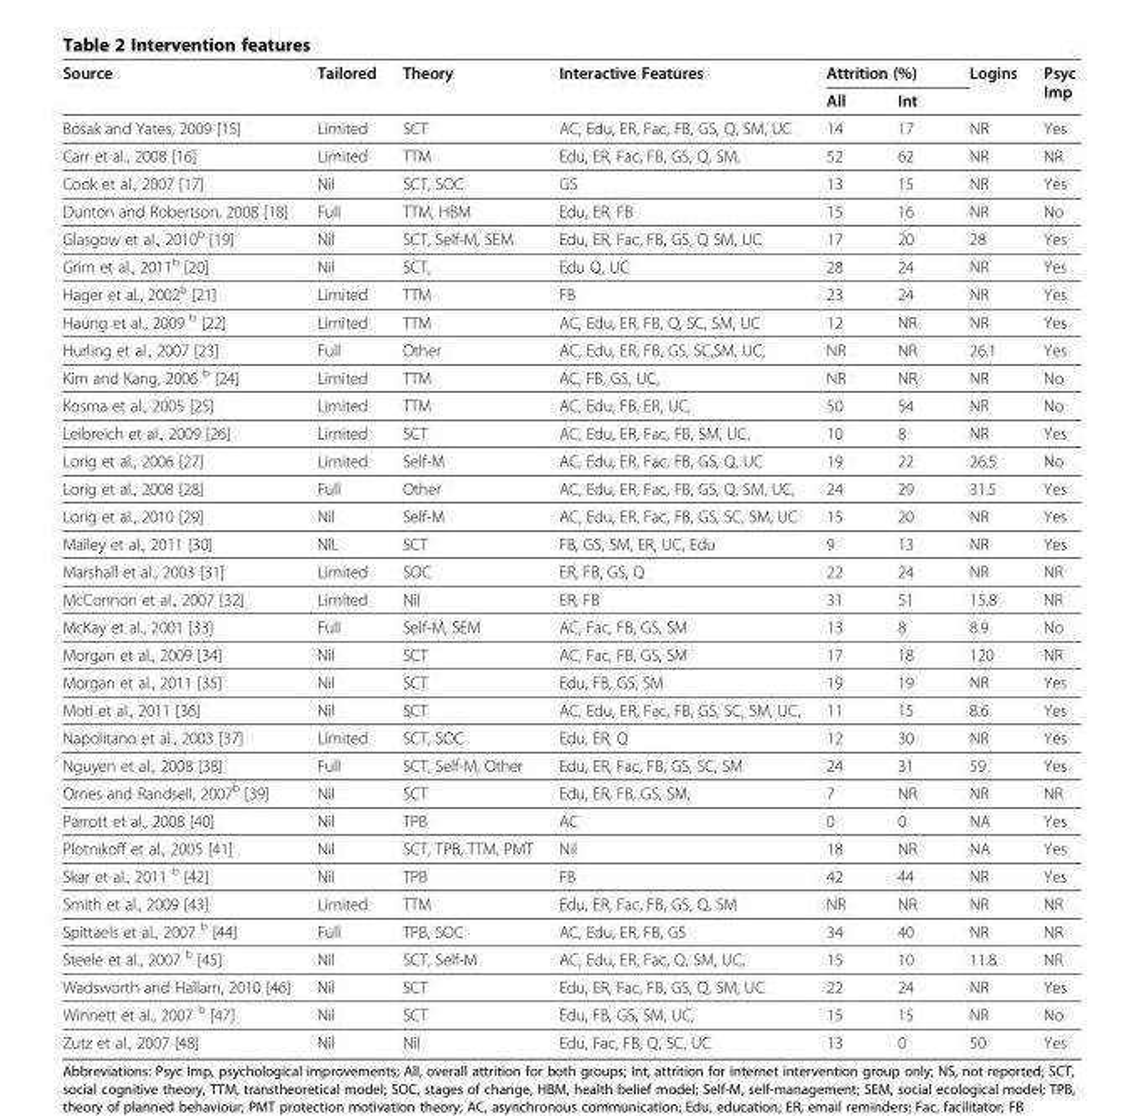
<table><thead><tr><td rowspan="2">Source</td><td rowspan="2">Tailored</td><td rowspan="2">Theory</td><td rowspan="2">Interactive Features</td><td colspan="2">Attrition (%)</td><td rowspan="2">Logins</td><td rowspan="2">Psyc Imp</td></tr><tr><td>All</td><td>Int</td></tr></thead><tbody><tr><td>Bosak and Yates, 2009 [15]</td><td>Limited</td><td>SCT</td><td>AC, Edu, ER, Fac, FB, GS, Q, SM, UC</td><td>14</td><td>17</td><td>NR</td><td>Yes</td></tr><tr><td>Carr et al., 2008 [16]</td><td>Limited</td><td>TTM</td><td>Edu, ER, Fac, FB, GS, Q, SM,</td><td>52</td><td>62</td><td>NR</td><td>NR</td></tr><tr><td>Cook et al., 2007 [17]</td><td>Nil</td><td>SCT, SOC</td><td>GS</td><td>13</td><td>15</td><td>NR</td><td>Yes</td></tr><tr><td>Dunton and Robertson, 2008 [18]</td><td>Full</td><td>TTM, HBM</td><td>Edu, ER, FB</td><td>15</td><td>16</td><td>NR</td><td>No</td></tr><tr><td>Glasgow et al., 2010<sup>b</sup> [19]</td><td>Nil</td><td>SCT, Self-M, SEM</td><td>Edu, ER, Fac, FB, GS, Q SM, UC</td><td>17</td><td>20</td><td>28</td><td>Yes</td></tr><tr><td>Grim et al., 2011<sup>b</sup> [20]</td><td>Nil</td><td>SCT,</td><td>Edu Q, UC</td><td>28</td><td>24</td><td>NR</td><td>Yes</td></tr><tr><td>Hager et al., 2002<sup>b</sup> [21]</td><td>Limited</td><td>TTM</td><td>FB</td><td>23</td><td>24</td><td>NR</td><td>Yes</td></tr><tr><td>Haung et al., 2009 <sup>b</sup> [22]</td><td>Limited</td><td>TTM</td><td>AC, Edu, ER, FB, Q, SC, SM, UC</td><td>12</td><td>NR</td><td>NR</td><td>Yes</td></tr><tr><td>Hurling et al., 2007 [23]</td><td>Full</td><td>Other</td><td>AC, Edu, ER, FB, GS, SC,SM, UC,</td><td>NR</td><td>NR</td><td>26.1</td><td>Yes</td></tr><tr><td>Kim and Kang, 2006 <sup>b</sup> [24]</td><td>Limited</td><td>TTM</td><td>AC, FB, GS, UC,</td><td>NR</td><td>NR</td><td>NR</td><td>No</td></tr><tr><td>Kosma et al., 2005 [25]</td><td>Limited</td><td>TTM</td><td>AC, Edu, FB, ER, UC,</td><td>50</td><td>54</td><td>NR</td><td>No</td></tr><tr><td>Leibreich et al., 2009 [26]</td><td>Limited</td><td>SCT</td><td>AC, Edu, ER, Fac, FB, SM, UC,</td><td>10</td><td>8</td><td>NR</td><td>Yes</td></tr><tr><td>Lorig et al., 2006 [27]</td><td>Limited</td><td>Self-M</td><td>AC, Edu, ER, Fac, FB, GS, Q, UC</td><td>19</td><td>22</td><td>26.5</td><td>No</td></tr><tr><td>Lorig et al., 2008 [28]</td><td>Full</td><td>Other</td><td>AC, Edu, ER, Fac, FB, GS, Q, SM, UC,</td><td>24</td><td>29</td><td>31.5</td><td>Yes</td></tr><tr><td>Lorig et al., 2010 [29]</td><td>Nil</td><td>Self-M</td><td>AC, Edu, ER, Fac, FB, GS, SC, SM, UC</td><td>15</td><td>20</td><td>NR</td><td>Yes</td></tr><tr><td>Mailey et al., 2011 [30]</td><td>NIL</td><td>SCT</td><td>FB, GS, SM, ER, UC, Edu</td><td>9</td><td>13</td><td>NR</td><td>Yes</td></tr><tr><td>Marshall et al., 2003 [31]</td><td>Limited</td><td>SOC</td><td>ER, FB, GS, Q</td><td>22</td><td>24</td><td>NR</td><td>NR</td></tr><tr><td>McConnon et al., 2007 [32]</td><td>Limited</td><td>Nil</td><td>ER, FB</td><td>31</td><td>51</td><td>15.8</td><td>NR</td></tr><tr><td>McKay et al., 2001 [33]</td><td>Full</td><td>Self-M, SEM</td><td>AC, Fac, FB, GS, SM</td><td>13</td><td>8</td><td>8.9</td><td>No</td></tr><tr><td>Morgan et al., 2009 [34]</td><td>Nil</td><td>SCT</td><td>AC, Fac, FB, GS, SM</td><td>17</td><td>18</td><td>120</td><td>NR</td></tr><tr><td>Morgan et al., 2011 [35]</td><td>Nil</td><td>SCT</td><td>Edu, FB, GS, SM</td><td>19</td><td>19</td><td>NR</td><td>Yes</td></tr><tr><td>Motl et al., 2011 [36]</td><td>Nil</td><td>SCT</td><td>AC, Edu, ER, Fac, FB, GS, SC, SM, UC,</td><td>11</td><td>15</td><td>8.6</td><td>Yes</td></tr><tr><td>Napolitano et al., 2003 [37]</td><td>Limited</td><td>SCT, SOC</td><td>Edu, ER, Q</td><td>12</td><td>30</td><td>NR</td><td>Yes</td></tr><tr><td>Nguyen et al., 2008 [38]</td><td>Full</td><td>SCT, Self-M, Other</td><td>Edu, ER, Fac, FB, GS, SC, SM</td><td>24</td><td>31</td><td>59</td><td>Yes</td></tr><tr><td>Ornes and Randsell, 2007<sup>b</sup> [39]</td><td>Nil</td><td>SCT</td><td>Edu, ER, FB, GS, SM,</td><td>7</td><td>NR</td><td>NR</td><td>NR</td></tr><tr><td>Parrott et al., 2008 [40]</td><td>Nil</td><td>TPB</td><td>AC</td><td>0</td><td>0</td><td>NA</td><td>Yes</td></tr><tr><td>Plotnikoff et al., 2005 [41]</td><td>Nil</td><td>SCT, TPB, TTM, PMT</td><td>Nil</td><td>18</td><td>NR</td><td>NA</td><td>Yes</td></tr><tr><td>Skar et al., 2011 <sup>b</sup> [42]</td><td>Nil</td><td>TPB</td><td>FB</td><td>42</td><td>44</td><td>NR</td><td>Yes</td></tr><tr><td>Smith et al., 2009 [43]</td><td>Limited</td><td>TTM</td><td>Edu, ER, Fac, FB, GS, Q, SM</td><td>NR</td><td>NR</td><td>NR</td><td>NR</td></tr><tr><td>Spittaels et al., 2007 <sup>b</sup> [44]</td><td>Full</td><td>TPB, SOC</td><td>AC, Edu, ER, FB, GS</td><td>34</td><td>40</td><td>NR</td><td>NR</td></tr><tr><td>Steele et al., 2007 <sup>b</sup> [45]</td><td>Nil</td><td>SCT, Self-M</td><td>AC, Edu, ER, Fac, Q, SM, UC,</td><td>15</td><td>10</td><td>11.8</td><td>NR</td></tr><tr><td>Wadsworth and Hallam, 2010 [46]</td><td>Nil</td><td>SCT</td><td>Edu, ER, Fac, FB, GS, Q, SM, UC</td><td>22</td><td>24</td><td>NR</td><td>Yes</td></tr><tr><td>Winnett et al., 2007 <sup>b</sup> [47]</td><td>Nil</td><td>SCT</td><td>Edu, FB, GS, SM, UC,</td><td>15</td><td>15</td><td>NR</td><td>No</td></tr><tr><td>Zutz et al., 2007 [48]</td><td>Nil</td><td>Nil</td><td>Edu, Fac, FB, Q, SC, UC</td><td>13</td><td>0</td><td>50</td><td>Yes</td></tr></tbody></table>